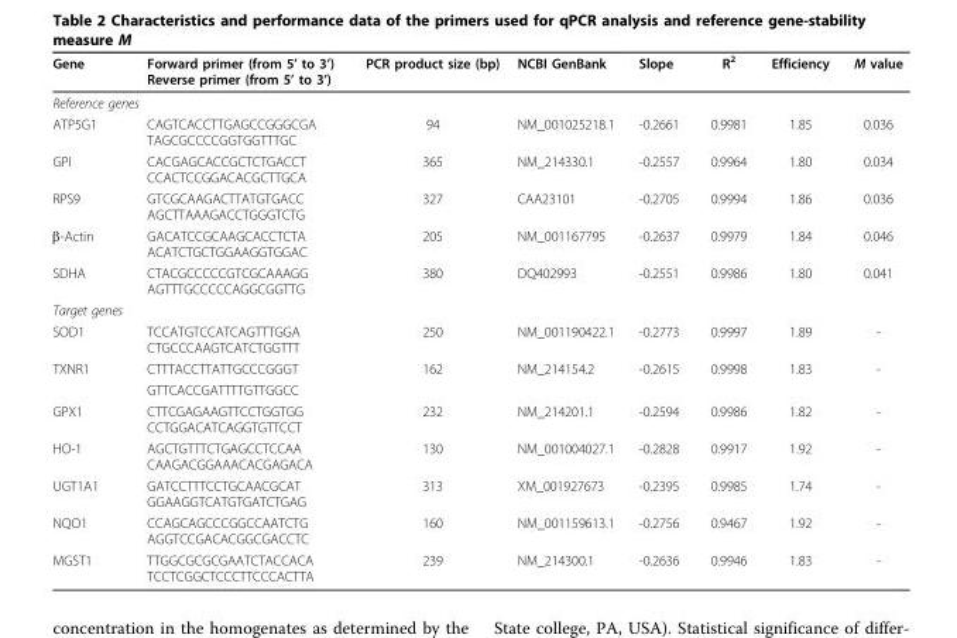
<table><thead><tr><td>Gene</td><td>Forward primer (from 5’ to 3’) Reverse primer (from 5’ to 3’)</td><td>PCR product size (bp)</td><td>NCBI GenBank</td><td>Slope</td><td>R<sup>2</sup></td><td>Efficiency</td><td>M value</td></tr></thead><tbody><tr><td colspan="8">Reference genes</td></tr><tr><td>ATP5G1</td><td>CAGTCACCTTGAGCCGGGCGA TAGCGCCCCGGTGGTTTGC</td><td>94</td><td>NM_001025218.1</td><td>-0.2661</td><td>0.9981</td><td>1.85</td><td>0.036</td></tr><tr><td>GPI</td><td>CACGAGCACCGCTCTGACCT CCACTCCGGACACGCTTGCA</td><td>365</td><td>NM_214330.1</td><td>-0.2557</td><td>0.9964</td><td>1.80</td><td>0.034</td></tr><tr><td>RPS9</td><td>GTCGCAAGACTTATGTGACC AGCTTAAAGACCTGGGTCTG</td><td>327</td><td>CAA23101</td><td>-0.2705</td><td>0.9994</td><td>1.86</td><td>0.036</td></tr><tr><td>β-Actin</td><td>GACATCCGCAAGCACCTCTA ACATCTGCTGGAAGGTGGAC</td><td>205</td><td>NM_001167795</td><td>-0.2637</td><td>0.9979</td><td>1.84</td><td>0.046</td></tr><tr><td>SDHA</td><td>CTACGCCCCCGTCGCAAAGG AGTTTGCCCCCAGGCGGTTG</td><td>380</td><td>DQ402993</td><td>-0.2551</td><td>0.9986</td><td>1.80</td><td>0.041</td></tr><tr><td colspan="8">Target genes</td></tr><tr><td>SOD1</td><td>TCCATGTCCATCAGTTTGGA CTGCCCAAGTCATCTGGTTT</td><td>250</td><td>NM_001190422.1</td><td>-0.2773</td><td>0.9997</td><td>1.89</td><td>-</td></tr><tr><td rowspan="2">TXNR1</td><td>CTTTACCTTATTGCCCGGGT</td><td>162</td><td>NM_214154.2</td><td>-0.2615</td><td>0.9998</td><td>1.83</td><td>-</td></tr><tr><td>GTTCACCGATTTTGTTGGCC</td><td></td><td></td><td></td><td></td><td></td><td></td></tr><tr><td>GPX1</td><td>CTTCGAGAAGTTCCTGGTGG CCTGGACATCAGGTGTTCCT</td><td>232</td><td>NM_214201.1</td><td>-0.2594</td><td>0.9986</td><td>1.82</td><td>-</td></tr><tr><td>HO-1</td><td>AGCTGTTTCTGAGCCTCCAA CAAGACGGAAACACGAGACA</td><td>130</td><td>NM_001004027.1</td><td>-0.2828</td><td>0.9917</td><td>1.92</td><td>-</td></tr><tr><td>UGT1A1</td><td>GATCCTTTCCTGCAACGCAT GGAAGGTCATGTGATCTGAG</td><td>313</td><td>XM_001927673</td><td>-0.2395</td><td>0.9985</td><td>1.74</td><td>-</td></tr><tr><td>NQO1</td><td>CCAGCAGCCCGGCCAATCTG AGGTCCGACACGGCGACCTC</td><td>160</td><td>NM_001159613.1</td><td>-0.2756</td><td>0.9467</td><td>1.92</td><td>-</td></tr><tr><td>MGST1</td><td>TTGGCGCGCGAATCTACCACA TCCTCGGCTCCCTTCCCACTTA</td><td>239</td><td>NM_214300.1</td><td>-0.2636</td><td>0.9946</td><td>1.83</td><td>-</td></tr></tbody></table>